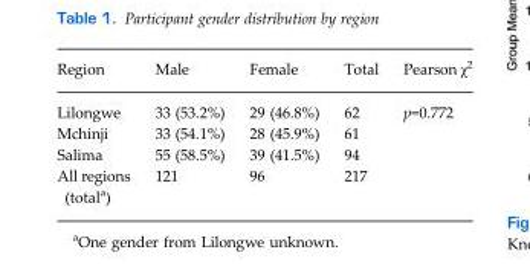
<table><thead><tr><td>Region</td><td>Male</td><td>Female</td><td>Total</td><td>Pearson χ<sup>2</sup></td></tr></thead><tbody><tr><td>Lilongwe</td><td>33 (53.2%)</td><td>29 (46.8%)</td><td>62</td><td>p=0.772</td></tr><tr><td>Mchinji</td><td>33 (54.1%)</td><td>28 (45.9%)</td><td>61</td><td></td></tr><tr><td>Salima</td><td>55 (58.5%)</td><td>39 (41.5%)</td><td>94</td><td></td></tr><tr><td>All regions (total<sup>a</sup>)</td><td>121</td><td>96</td><td>217</td><td></td></tr></tbody></table>